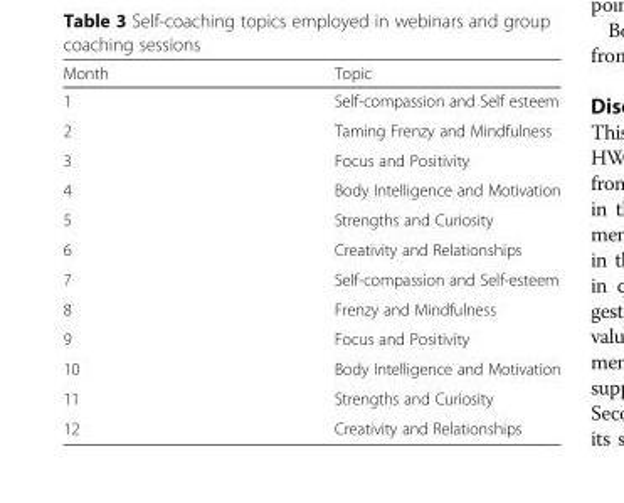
<table><thead><tr><td>Month</td><td>Topic</td></tr></thead><tbody><tr><td>1</td><td>Self-compassion and Self esteem</td></tr><tr><td>2</td><td>Taming Frenzy and Mindfulness</td></tr><tr><td>3</td><td>Focus and Positivity</td></tr><tr><td>4</td><td>Body Intelligence and Motivation</td></tr><tr><td>5</td><td>Strengths and Curiosity</td></tr><tr><td>6</td><td>Creativity and Relationships</td></tr><tr><td>7</td><td>Self-compassion and Self-esteem</td></tr><tr><td>8</td><td>Frenzy and Mindfulness</td></tr><tr><td>9</td><td>Focus and Positivity</td></tr><tr><td>10</td><td>Body Intelligence and Motivation</td></tr><tr><td>11</td><td>Strengths and Curiosity</td></tr><tr><td>12</td><td>Creativity and Relationships</td></tr></tbody></table>